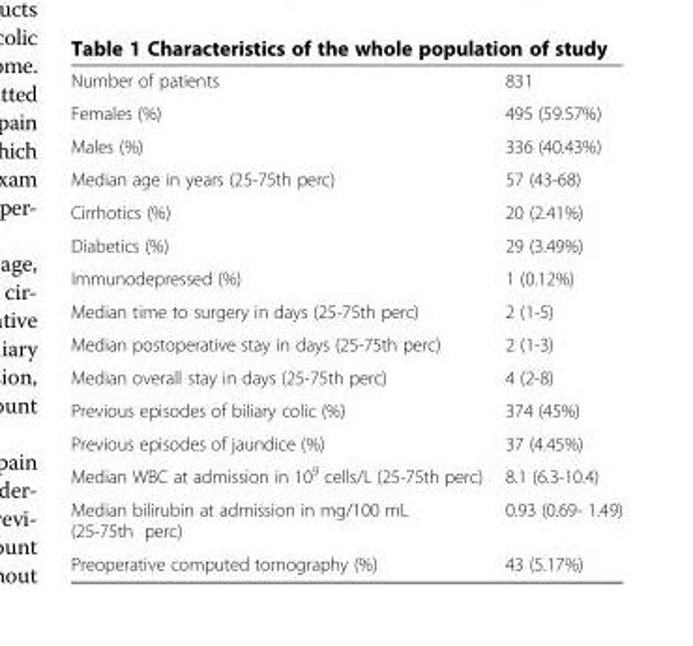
<table><tbody><tr><td>Number of patients</td><td>831</td></tr><tr><td>Females (%)</td><td>495 (59.57%)</td></tr><tr><td>Males (%)</td><td>336 (40.43%)</td></tr><tr><td>Median age in years (25-75th perc)</td><td>57 (43-68)</td></tr><tr><td>Cirrhotics (%)</td><td>20 (2.41%)</td></tr><tr><td>Diabetics (%)</td><td>29 (3.49%)</td></tr><tr><td>Immunodepressed (%)</td><td>1 (0.12%)</td></tr><tr><td>Median time to surgery in days (25-75th perc)</td><td>2 (1-5)</td></tr><tr><td>Median postoperative stay in days (25-75th perc)</td><td>2 (1-3)</td></tr><tr><td>Median overall stay in days (25-75th perc)</td><td>4 (2-8)</td></tr><tr><td>Previous episodes of biliary colic (%)</td><td>374 (45%)</td></tr><tr><td>Previous episodes of jaundice (%)</td><td>37 (4.45%)</td></tr><tr><td>Median WBC at admission in 10<sup>9</sup> cells/L (25-75th perc)</td><td>8.1 (6.3-10.4)</td></tr><tr><td>Median bilirubin at admission in mg/100 mL (25-75th perc)</td><td>0.93 (0.69- 1.49)</td></tr><tr><td>Preoperative computed tomography (%)</td><td>43 (5.17%)</td></tr></tbody></table>